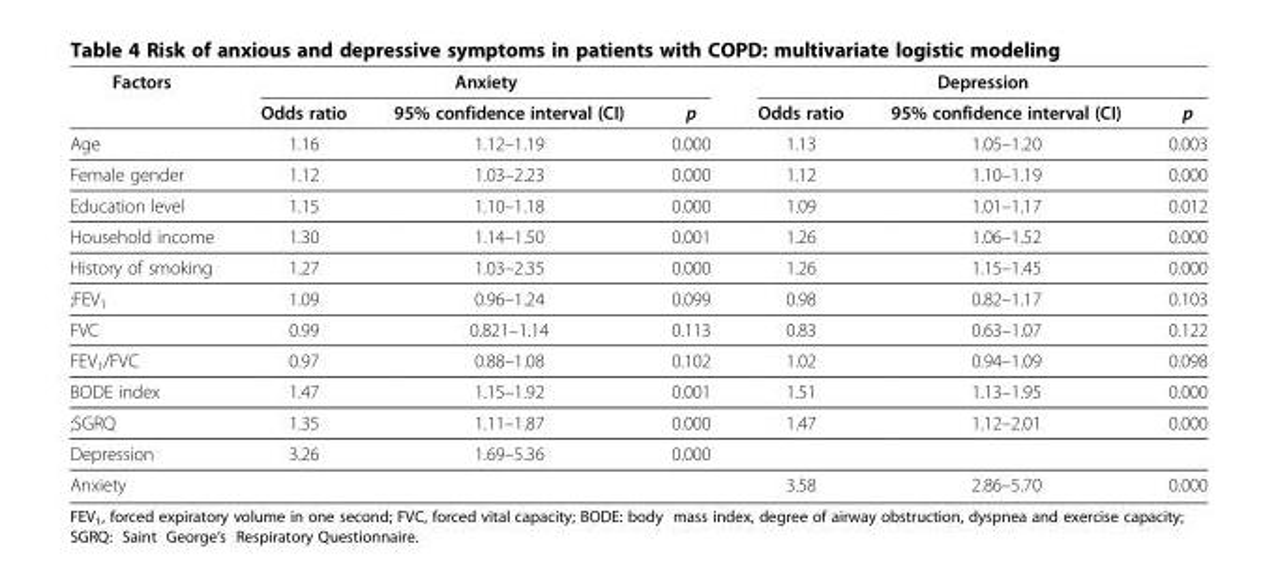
<table><thead><tr><td rowspan="2">Factors</td><td colspan="3">Anxiety</td><td colspan="3">Depression</td></tr><tr><td>Odds ratio</td><td>95% confidence interval (CI)</td><td>p</td><td>Odds ratio</td><td>95% confidence interval (CI)</td><td>p</td></tr></thead><tbody><tr><td>Age</td><td>1.16</td><td>1.12–1.19</td><td>0.000</td><td>1.13</td><td>1.05–1.20</td><td>0.003</td></tr><tr><td>Female gender</td><td>1.12</td><td>1.03–2.23</td><td>0.000</td><td>1.12</td><td>1.10–1.19</td><td>0.000</td></tr><tr><td>Education level</td><td>1.15</td><td>1.10–1.18</td><td>0.000</td><td>1.09</td><td>1.01–1.17</td><td>0.012</td></tr><tr><td>Household income</td><td>1.30</td><td>1.14–1.50</td><td>0.001</td><td>1.26</td><td>1.06–1.52</td><td>0.000</td></tr><tr><td>History of smoking</td><td>1.27</td><td>1.03–2.35</td><td>0.000</td><td>1.26</td><td>1.15–1.45</td><td>0.000</td></tr><tr><td>;FEV<sub>1</sub></td><td>1.09</td><td>0.96–1.24</td><td>0.099</td><td>0.98</td><td>0.82–1.17</td><td>0.103</td></tr><tr><td>FVC</td><td>0.99</td><td>0.821–1.14</td><td>0.113</td><td>0.83</td><td>0.63–1.07</td><td>0.122</td></tr><tr><td>FEV<sub>1</sub>/FVC</td><td>0.97</td><td>0.88–1.08</td><td>0.102</td><td>1.02</td><td>0.94–1.09</td><td>0.098</td></tr><tr><td>BODE index</td><td>1.47</td><td>1.15–1.92</td><td>0.001</td><td>1.51</td><td>1.13–1.95</td><td>0.000</td></tr><tr><td>;SGRQ</td><td>1.35</td><td>1.11–1.87</td><td>0.000</td><td>1.47</td><td>1.12–2.01</td><td>0.000</td></tr><tr><td>Depression</td><td>3.26</td><td>1.69–5.36</td><td>0.000</td><td></td><td></td><td></td></tr><tr><td>Anxiety</td><td></td><td></td><td></td><td>3.58</td><td>2.86–5.70</td><td>0.000</td></tr></tbody></table>